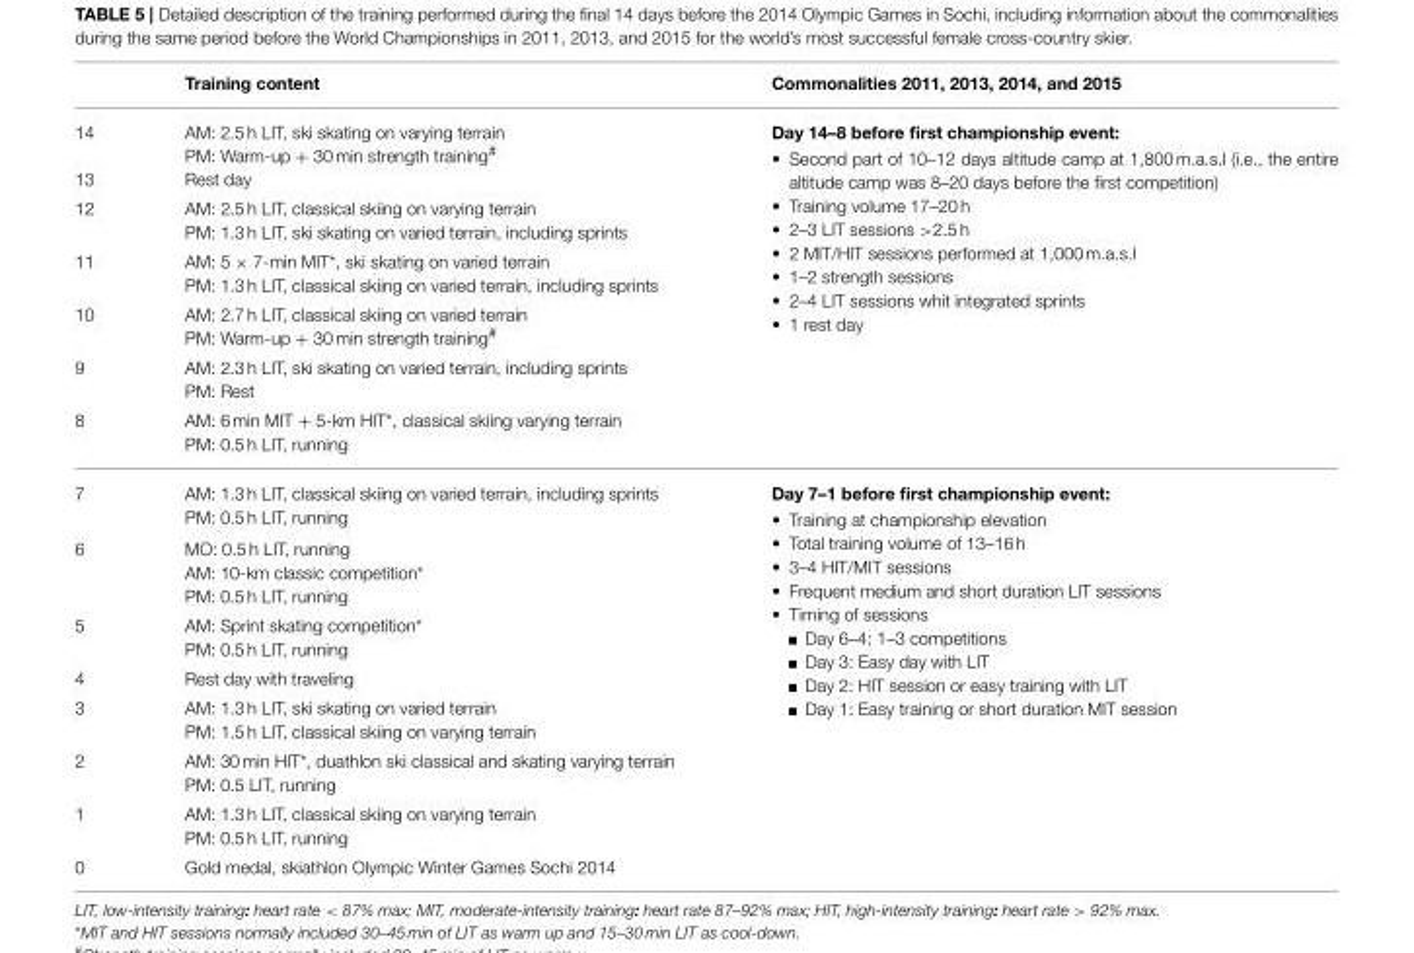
<table><thead><tr><td></td><td>Training content</td><td>Commonalities 2011, 2013, 2014, and 2015</td></tr></thead><tbody><tr><td>14</td><td>AM: 2.5 h LIT, ski skating on varying terrain PM: Warm-up + 30 min strength training<sup>#</sup></td><td rowspan="7">Day 14–8 before first championship event: • Second part of 10–12 days altitude camp at 1,800 m.a.s.l (i.e., the entire altitude camp was 8–20 days before the first competition) • Training volume 17–20 h • 2–3 LIT sessions &gt;2.5 h • 2 MIT/HIT sessions performed at 1,000 m.a.s.l • 1–2 strength sessions • 2–4 LIT sessions whit integrated sprints • 1 rest day</td></tr><tr><td>13</td><td>Rest day</td></tr><tr><td>12</td><td>AM: 2.5 h LIT, classical skiing on varying terrain PM: 1.3 h LIT, ski skating on varied terrain, including sprints</td></tr><tr><td>11</td><td>AM: 5 × 7-min MIT*, ski skating on varied terrain PM: 1.3 h LIT, classical skiing on varied terrain, including sprints</td></tr><tr><td>10</td><td>AM: 2.7 h LIT, classical skiing on varied terrain PM: Warm-up + 30 min strength training<sup>#</sup></td></tr><tr><td>9</td><td>AM: 2.3 h LIT, ski skating on varied terrain, including sprints PM: Rest</td></tr><tr><td>8</td><td>AM: 6 min MIT + 5-km HIT*, classical skiing varying terrain PM: 0.5 h LIT, running</td></tr><tr><td>7</td><td>AM: 1.3 h LIT, classical skiing on varied terrain, including sprints PM: 0.5 h LIT, running</td><td rowspan="8">Day 7–1 before first championship event: • Training at championship elevation • Total training volume of 13–16 h • 3–4 HIT/MIT sessions • Frequent medium and short duration LIT sessions • Timing of sessions Day 6–4: 1–3 competitions Day 3: Easy day with LIT Day 2: HIT session or easy training with LIT Day 1: Easy training or short duration MIT session</td></tr><tr><td>6</td><td>MO: 0.5 h LIT, running AM: 10-km classic competition* PM: 0.5 h LIT, running</td></tr><tr><td>5</td><td>AM: Sprint skating competition* PM: 0.5 h LIT, running</td></tr><tr><td>4</td><td>Rest day with traveling</td></tr><tr><td>3</td><td>AM: 1.3 h LIT, ski skating on varied terrain PM: 1.5 h LIT, classical skiing on varying terrain</td></tr><tr><td>2</td><td>AM: 30 min HIT*, duathlon ski classical and skating varying terrain PM: 0.5 LIT, running</td></tr><tr><td>1</td><td>AM: 1.3 h LIT, classical skiing on varying terrain PM: 0.5 h LIT, running</td></tr><tr><td>0</td><td>Gold medal, skiathlon Olympic Winter Games Sochi 2014</td></tr></tbody></table>